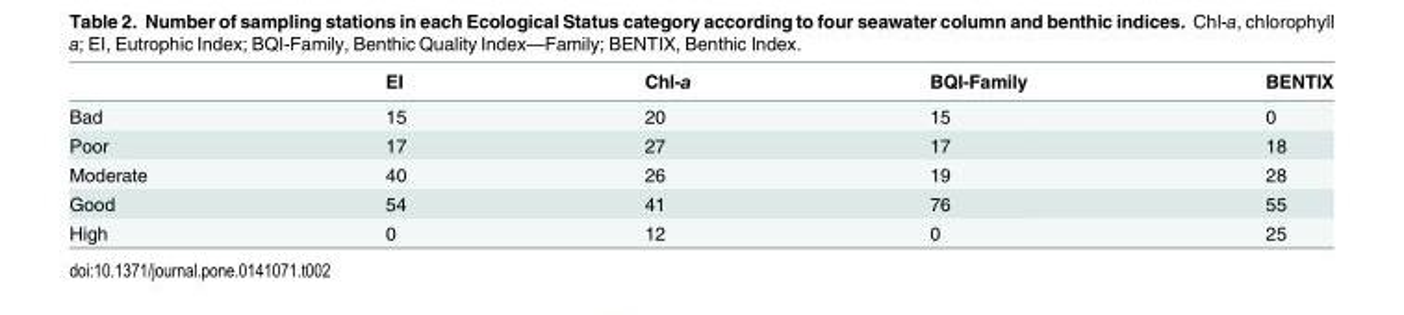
<table><thead><tr><td></td><td>EI</td><td>Chl-a</td><td>BQI-Family</td><td>BENTIX</td></tr></thead><tbody><tr><td>Bad</td><td>15</td><td>20</td><td>15</td><td>0</td></tr><tr><td>Poor</td><td>17</td><td>27</td><td>17</td><td>18</td></tr><tr><td>Moderate</td><td>40</td><td>26</td><td>19</td><td>28</td></tr><tr><td>Good</td><td>54</td><td>41</td><td>76</td><td>55</td></tr><tr><td>High</td><td>0</td><td>12</td><td>0</td><td>25</td></tr></tbody></table>